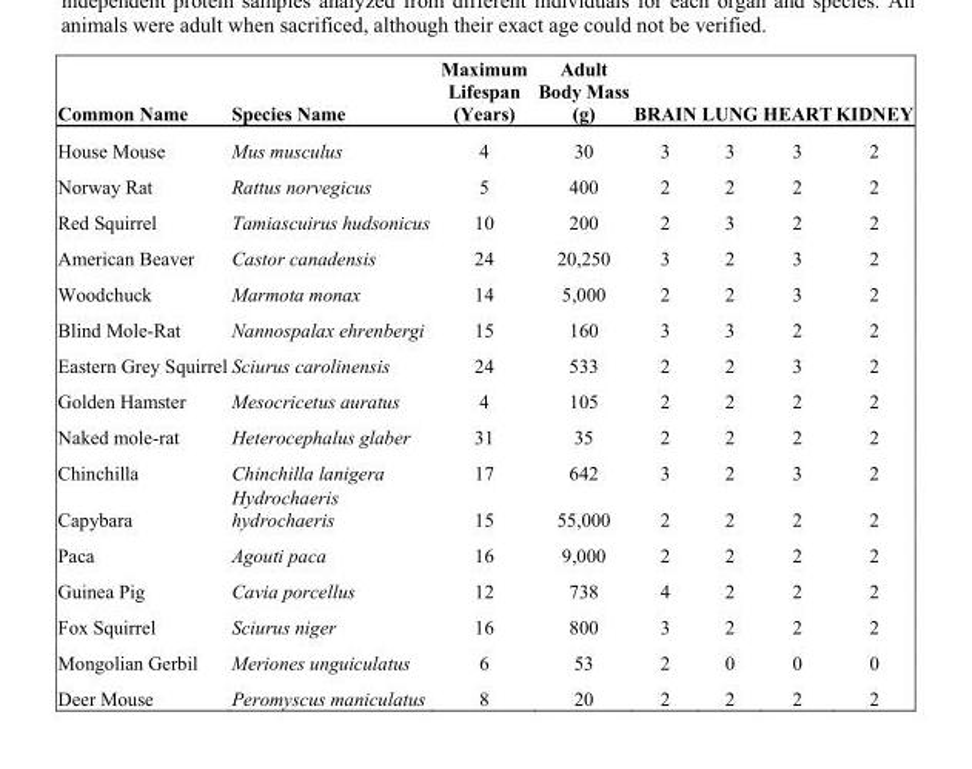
<table><thead><tr><td>Common Name</td><td>Species Name</td><td>Maximum Lifespan (Years)</td><td>Adult Body Mass (g)</td><td>BRAIN</td><td>LUNG</td><td>HEART</td><td>KIDNEY</td></tr></thead><tbody><tr><td>House Mouse</td><td>Mus musculus</td><td>4</td><td>30</td><td>3</td><td>3</td><td>3</td><td>2</td></tr><tr><td>Norway Rat</td><td>Rattus norvegicus</td><td>5</td><td>400</td><td>2</td><td>2</td><td>2</td><td>2</td></tr><tr><td>Red Squirrel</td><td>Tamiascuirus hudsonicus</td><td>10</td><td>200</td><td>2</td><td>3</td><td>2</td><td>2</td></tr><tr><td>American Beaver</td><td>Castor canadensis</td><td>24</td><td>20,250</td><td>3</td><td>2</td><td>3</td><td>2</td></tr><tr><td>Woodchuck</td><td>Marmota monax</td><td>14</td><td>5,000</td><td>2</td><td>2</td><td>3</td><td>2</td></tr><tr><td>Blind Mole-Rat</td><td>Nannospalax ehrenbergi</td><td>15</td><td>160</td><td>3</td><td>3</td><td>2</td><td>2</td></tr><tr><td>Eastern Grey Squirrel</td><td>Sciurus carolinensis</td><td>24</td><td>533</td><td>2</td><td>2</td><td>3</td><td>2</td></tr><tr><td>Golden Hamster</td><td>Mesocricetus auratus</td><td>4</td><td>105</td><td>2</td><td>2</td><td>2</td><td>2</td></tr><tr><td>Naked mole-rat</td><td>Heterocephalus glaber</td><td>31</td><td>35</td><td>2</td><td>2</td><td>2</td><td>2</td></tr><tr><td>Chinchilla</td><td>Chinchilla lanigera</td><td>17</td><td>642</td><td>3</td><td>2</td><td>3</td><td>2</td></tr><tr><td>Capybara</td><td>Hydrochaeris hydrochaeris</td><td>15</td><td>55,000</td><td>2</td><td>2</td><td>2</td><td>2</td></tr><tr><td>Paca</td><td>Agouti paca</td><td>16</td><td>9,000</td><td>2</td><td>2</td><td>2</td><td>2</td></tr><tr><td>Guinea Pig</td><td>Cavia porcellus</td><td>12</td><td>738</td><td>4</td><td>2</td><td>2</td><td>2</td></tr><tr><td>Fox Squirrel</td><td>Sciurus niger</td><td>16</td><td>800</td><td>3</td><td>2</td><td>2</td><td>2</td></tr><tr><td>Mongolian Gerbil</td><td>Meriones unguiculatus</td><td>6</td><td>53</td><td>2</td><td>0</td><td>0</td><td>0</td></tr><tr><td>Deer Mouse</td><td>Peromyscus maniculatus</td><td>8</td><td>20</td><td>2</td><td>2</td><td>2</td><td>2</td></tr></tbody></table>